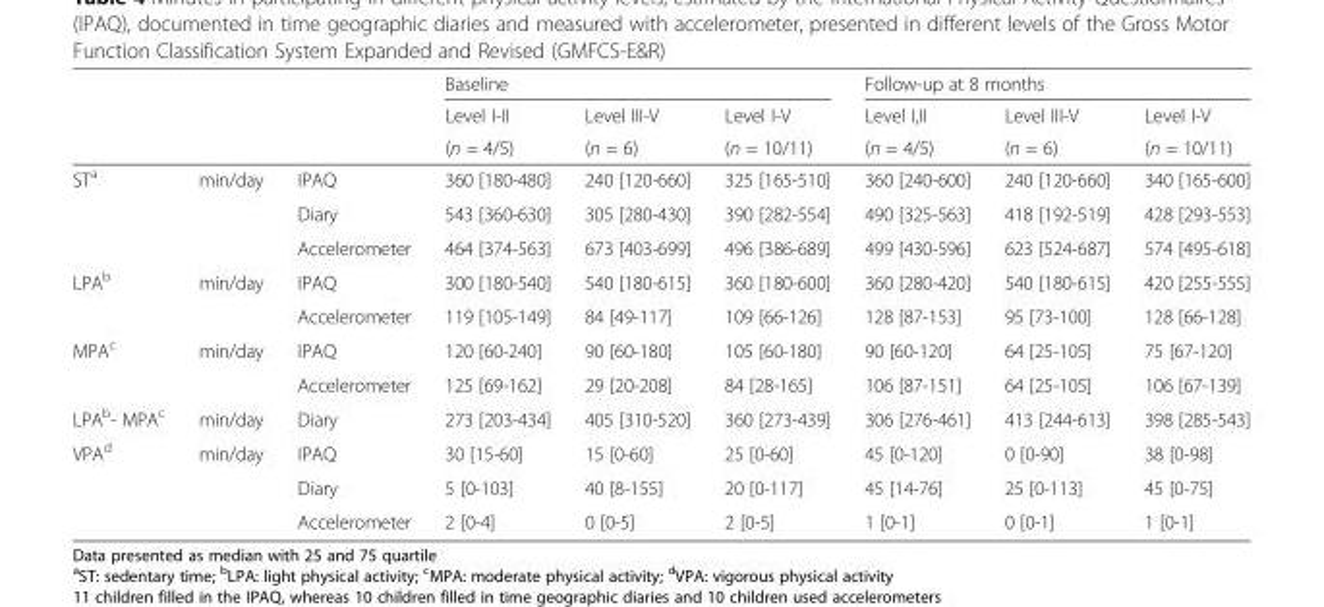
<table><thead><tr><td rowspan="3"></td><td rowspan="3"></td><td rowspan="3"></td><td colspan="3">Baseline</td><td colspan="3">Follow-up at 8 months</td></tr><tr><td rowspan="2">Level I-II (n = 4/5)</td><td rowspan="2">Level III-V (n = 6)</td><td rowspan="2">Level I-V (n = 10/11)</td><td rowspan="2">Level I,II (n = 4/5)</td><td rowspan="2">Level III-V (n = 6)</td><td rowspan="2">Level I-V (n = 10/11)</td></tr><tr></tr></thead><tbody><tr><td rowspan="3">ST<sup>a</sup></td><td rowspan="3">min/day</td><td>IPAQ</td><td>360 [180-480]</td><td>240 [120-660]</td><td>325 [165-510]</td><td>360 [240-600]</td><td>240 [120-660]</td><td>340 [165-600]</td></tr><tr><td>Diary</td><td>543 [360-630]</td><td>305 [280-430]</td><td>390 [282-554]</td><td>490 [325-563]</td><td>418 [192-519]</td><td>428 [293-553]</td></tr><tr><td>Accelerometer</td><td>464 [374-563]</td><td>673 [403-699]</td><td>496 [386-689]</td><td>499 [430-596]</td><td>623 [524-687]</td><td>574 [495-618]</td></tr><tr><td rowspan="2">LPA<sup>b</sup></td><td rowspan="2">min/day</td><td>IPAQ</td><td>300 [180-540]</td><td>540 [180-615]</td><td>360 [180-600]</td><td>360 [280-420]</td><td>540 [180-615]</td><td>420 [255-555]</td></tr><tr><td>Accelerometer</td><td>119 [105-149]</td><td>84 [49-117]</td><td>109 [66-126]</td><td>128 [87-153]</td><td>95 [73-100]</td><td>128 [66-128]</td></tr><tr><td rowspan="2">MPA<sup>c</sup></td><td rowspan="2">min/day</td><td>IPAQ</td><td>120 [60-240]</td><td>90 [60-180]</td><td>105 [60-180]</td><td>90 [60-120]</td><td>64 [25-105]</td><td>75 [67-120]</td></tr><tr><td>Accelerometer</td><td>125 [69-162]</td><td>29 [20-208]</td><td>84 [28-165]</td><td>106 [87-151]</td><td>64 [25-105]</td><td>106 [67-139]</td></tr><tr><td>LPA<sup>b</sup>- MPA<sup>c</sup></td><td>min/day</td><td>Diary</td><td>273 [203-434]</td><td>405 [310-520]</td><td>360 [273-439]</td><td>306 [276-461]</td><td>413 [244-613]</td><td>398 [285-543]</td></tr><tr><td rowspan="3">VPA<sup>d</sup></td><td rowspan="3">min/day</td><td>IPAQ</td><td>30 [15-60]</td><td>15 [0-60]</td><td>25 [0-60]</td><td>45 [0-120]</td><td>0 [0-90]</td><td>38 [0-98]</td></tr><tr><td>Diary</td><td>5 [0-103]</td><td>40 [8-155]</td><td>20 [0-117]</td><td>45 [14-76]</td><td>25 [0-113]</td><td>45 [0-75]</td></tr><tr><td>Accelerometer</td><td>2 [0-4]</td><td>0 [0-5]</td><td>2 [0-5]</td><td>1 [0-1]</td><td>0 [0-1]</td><td>1 [0-1]</td></tr></tbody></table>